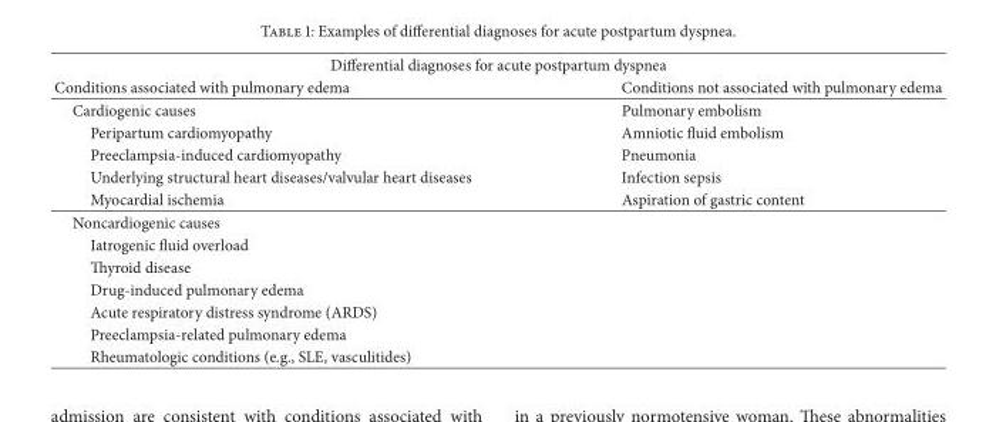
<table><thead><tr><td colspan="2">Differential diagnoses for acute postpartum dyspnea</td></tr><tr><td>Conditions associated with pulmonary edema</td><td>Conditions not associated with pulmonary edema</td></tr></thead><tbody><tr><td>Cardiogenic causes</td><td>Pulmonary embolism</td></tr><tr><td>Peripartum cardiomyopathy</td><td>Amniotic fluid embolism</td></tr><tr><td>Preeclampsia-induced cardiomyopathy</td><td>Pneumonia</td></tr><tr><td>Underlying structural heart diseases/valvular heart diseases</td><td>Infection sepsis</td></tr><tr><td>Myocardial ischemia</td><td>Aspiration of gastric content</td></tr><tr><td colspan="2">Noncardiogenic causes</td></tr><tr><td colspan="2">Iatrogenic fluid overload</td></tr><tr><td colspan="2">Thyroid disease</td></tr><tr><td colspan="2">Drug-induced pulmonary edema</td></tr><tr><td colspan="2">Acute respiratory distress syndrome (ARDS)</td></tr><tr><td colspan="2">Preeclampsia-related pulmonary edema</td></tr><tr><td>Rheumatologic conditions (e.g., SLE, vasculitides)</td><td></td></tr></tbody></table>